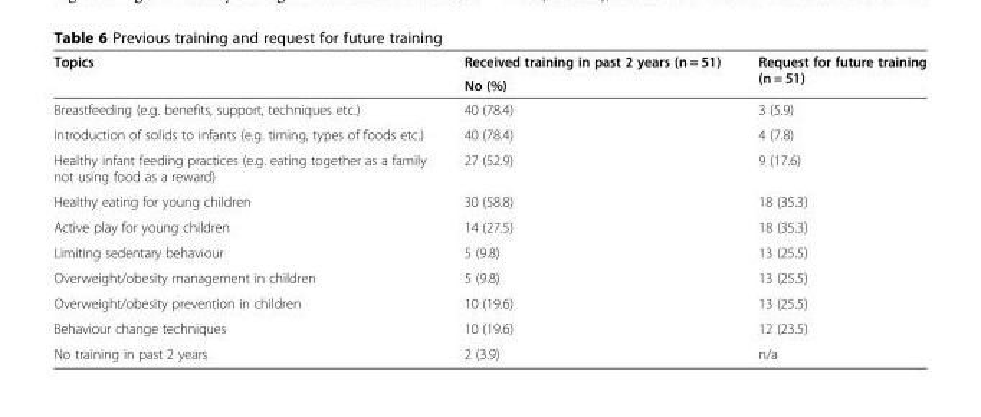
<table><thead><tr><td rowspan="2">Topics</td><td rowspan="2">Received training in past 2 years (n = 51) No (%)</td><td rowspan="2">Request for future training (n = 51)</td></tr><tr></tr></thead><tbody><tr><td>Breastfeeding (e.g. benefits, support, techniques etc.)</td><td>40 (78.4)</td><td>3 (5.9)</td></tr><tr><td>Introduction of solids to infants (e.g. timing, types of foods etc.)</td><td>40 (78.4)</td><td>4 (7.8)</td></tr><tr><td>Healthy infant feeding practices (e.g. eating together as a family not using food as a reward)</td><td>27 (52.9)</td><td>9 (17.6)</td></tr><tr><td>Healthy eating for young children</td><td>30 (58.8)</td><td>18 (35.3)</td></tr><tr><td>Active play for young children</td><td>14 (27.5)</td><td>18 (35.3)</td></tr><tr><td>Limiting sedentary behaviour</td><td>5 (9.8)</td><td>13 (25.5)</td></tr><tr><td>Overweight/obesity management in children</td><td>5 (9.8)</td><td>13 (25.5)</td></tr><tr><td>Overweight/obesity prevention in children</td><td>10 (19.6)</td><td>13 (25.5)</td></tr><tr><td>Behaviour change techniques</td><td>10 (19.6)</td><td>12 (23.5)</td></tr><tr><td>No training in past 2 years</td><td>2 (3.9)</td><td>n/a</td></tr></tbody></table>